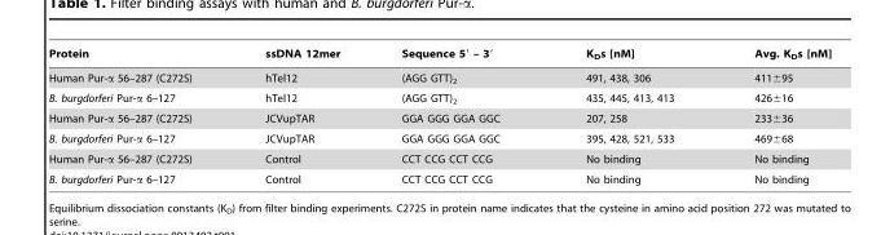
<table><thead><tr><td>Protein</td><td>ssDNA 12mer</td><td>Sequence 5′ – 3′</td><td>K<sub>D</sub>s [nM]</td><td>Avg. K<sub>D</sub>s [nM]</td></tr></thead><tbody><tr><td>Human Pur-α 56–287 (C272S)</td><td>hTel12</td><td>(AGG GTT)<sub>2</sub></td><td>491, 438, 306</td><td>411±95</td></tr><tr><td>B. burgdorferi Pur-α 6–127</td><td>hTel12</td><td>(AGG GTT)<sub>2</sub></td><td>435, 445, 413, 413</td><td>426±16</td></tr><tr><td>Human Pur-α 56–287 (C272S)</td><td>JCVupTAR</td><td>GGA GGG GGA GGC</td><td>207, 258</td><td>233±36</td></tr><tr><td>B. burgdorferi Pur-α 6–127</td><td>JCVupTAR</td><td>GGA GGG GGA GGC</td><td>395, 428, 521, 533</td><td>469±68</td></tr><tr><td>Human Pur-α 56–287 (C272S)</td><td>Control</td><td>CCT CCG CCT CCG</td><td>No binding</td><td>No binding</td></tr><tr><td>B. burgdorferi Pur-α 6–127</td><td>Control</td><td>CCT CCG CCT CCG</td><td>No binding</td><td>No binding</td></tr></tbody></table>